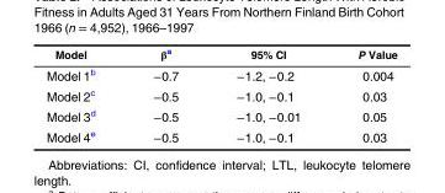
<table><thead><tr><td>Model</td><td>β<sup>a</sup></td><td>95% CI</td><td>P Value</td></tr></thead><tbody><tr><td>Model 1<sup>b</sup></td><td>−0.7</td><td>−1.2, −0.2</td><td>0.004</td></tr><tr><td>Model 2<sup>c</sup></td><td>−0.5</td><td>−1.0, −0.1</td><td>0.03</td></tr><tr><td>Model 3<sup>d</sup></td><td>−0.5</td><td>−1.0, −0.01</td><td>0.05</td></tr><tr><td>Model 4<sup>e</sup></td><td>−0.5</td><td>−1.0, −0.1</td><td>0.03</td></tr></tbody></table>